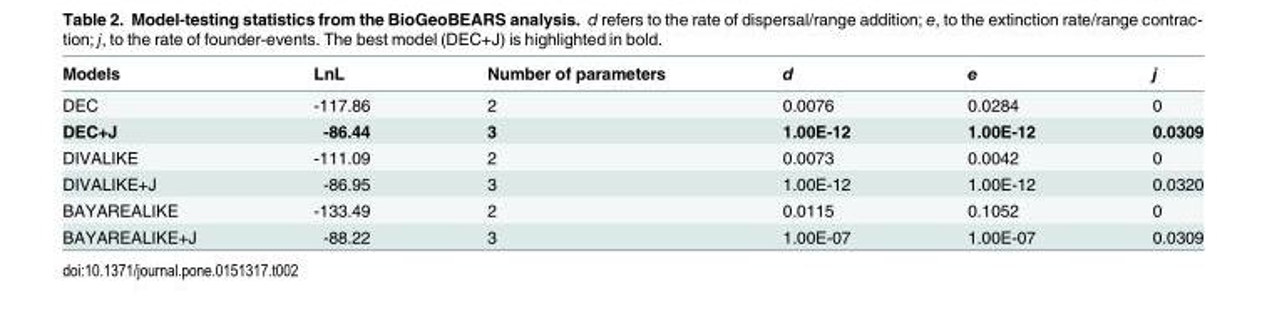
<table><thead><tr><td>Models</td><td>LnL</td><td>Number of parameters</td><td>d</td><td>e</td><td>j</td></tr></thead><tbody><tr><td>DEC</td><td>-117.86</td><td>2</td><td>0.0076</td><td>0.0284</td><td>0</td></tr><tr><td>DEC+J</td><td>-86.44</td><td>3</td><td>1.00E-12</td><td>1.00E-12</td><td>0.0309</td></tr><tr><td>DIVALIKE</td><td>-111.09</td><td>2</td><td>0.0073</td><td>0.0042</td><td>0</td></tr><tr><td>DIVALIKE+J</td><td>-86.95</td><td>3</td><td>1.00E-12</td><td>1.00E-12</td><td>0.0320</td></tr><tr><td>BAYAREALIKE</td><td>-133.49</td><td>2</td><td>0.0115</td><td>0.1052</td><td>0</td></tr><tr><td>BAYAREALIKE+J</td><td>-88.22</td><td>3</td><td>1.00E-07</td><td>1.00E-07</td><td>0.0309</td></tr></tbody></table>